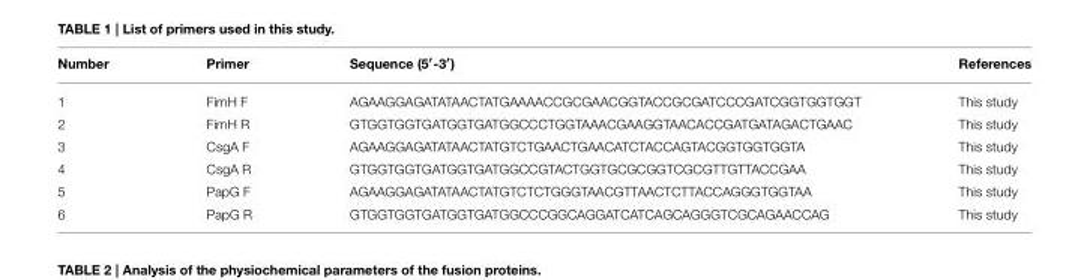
<table><thead><tr><td>Number</td><td>Primer</td><td>Sequence (5′-3′)</td><td>References</td></tr></thead><tbody><tr><td>1</td><td>FimH F</td><td>AGAAGGAGATATAACTATGAAAACCGCGAACGGTACCGCGATCCCGATCGGTGGTGGT</td><td>This study</td></tr><tr><td>2</td><td>FimH R</td><td>GTGGTGGTGATGGTGATGGCCCTGGTAAACGAAGGTAACACCGATGATAGACTGAAC</td><td>This study</td></tr><tr><td>3</td><td>CsgA F</td><td>AGAAGGAGATATAACTATGTCTGAACTGAACATCTACCAGTACGGTGGTGGTA</td><td>This study</td></tr><tr><td>4</td><td>CsgA R</td><td>GTGGTGGTGATGGTGATGGCCGTACTGGTGCGCGGTCGCGTTGTTACCGAA</td><td>This study</td></tr><tr><td>5</td><td>PapG F</td><td>AGAAGGAGATATAACTATGTCTCTGGGTAACGTTAACTCTTACCAGGGTGGTAA</td><td>This study</td></tr><tr><td>6</td><td>PapG R</td><td>GTGGTGGTGATGGTGATGGCCCGGCAGGATCATCAGCAGGGTCGCAGAACCAG</td><td>This study</td></tr></tbody></table>